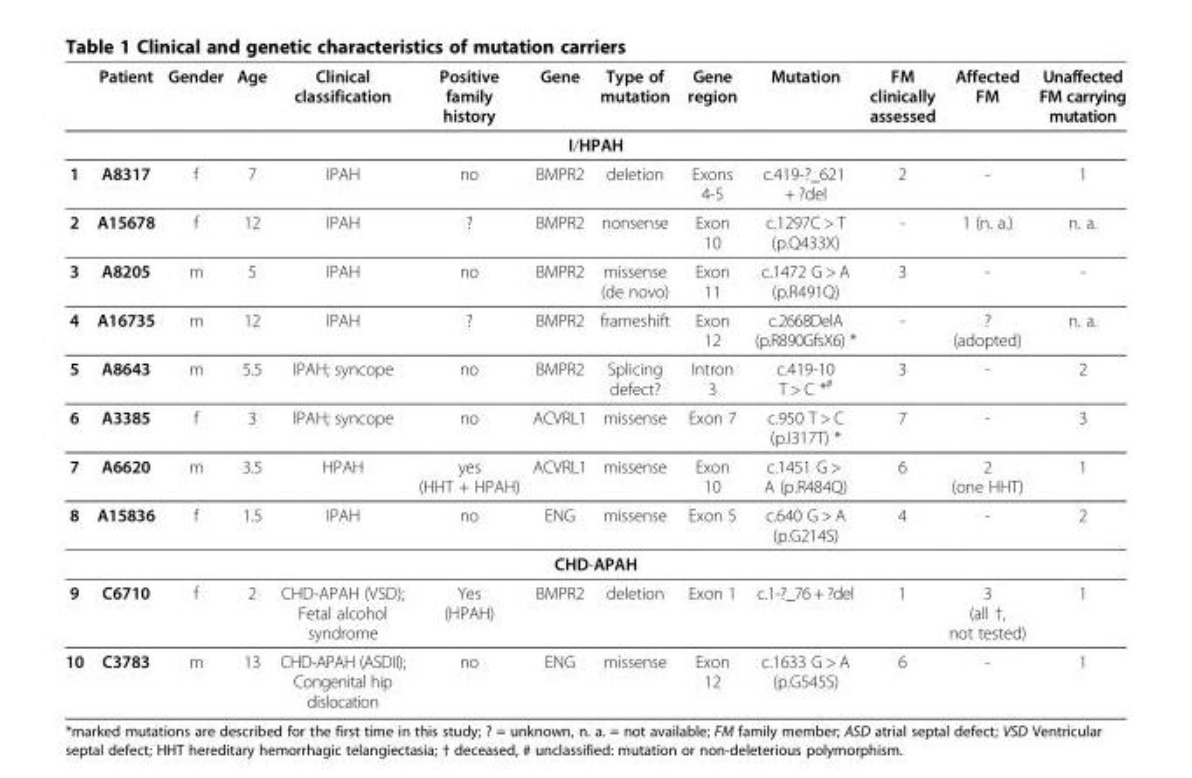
<table><thead><tr><td></td><td>Patient</td><td>Gender</td><td>Age</td><td>Clinical classification</td><td>Positive family history</td><td>Gene</td><td>Type of mutation</td><td>Gene region</td><td>Mutation</td><td>FM clinically assessed</td><td>Affected FM</td><td>Unaffected FM carrying mutation</td></tr></thead><tbody><tr><td colspan="13">I/HPAH</td></tr><tr><td>1</td><td>A8317</td><td>f</td><td>7</td><td>IPAH</td><td>no</td><td>BMPR2</td><td>deletion</td><td>Exons 4-5</td><td>c.419-?_621 + ?del</td><td>2</td><td>-</td><td>1</td></tr><tr><td>2</td><td>A15678</td><td>f</td><td>12</td><td>IPAH</td><td>?</td><td>BMPR2</td><td>nonsense</td><td>Exon 10</td><td>c.1297C &gt; T (p.Q433X)</td><td>-</td><td>1 (n. a.)</td><td>n. a.</td></tr><tr><td>3</td><td>A8205</td><td>m</td><td>5</td><td>IPAH</td><td>no</td><td>BMPR2</td><td>missense (de novo)</td><td>Exon 11</td><td>c.1472 G &gt; A (p.R491Q)</td><td>3</td><td>-</td><td>-</td></tr><tr><td>4</td><td>A16735</td><td>m</td><td>12</td><td>IPAH</td><td>?</td><td>BMPR2</td><td>frameshift</td><td>Exon 12</td><td>c.2668DelA (p.R890GfsX6) *</td><td>-</td><td>? (adopted)</td><td>n. a.</td></tr><tr><td>5</td><td>A8643</td><td>m</td><td>5.5</td><td>IPAH; syncope</td><td>no</td><td>BMPR2</td><td>Splicing defect?</td><td>Intron 3</td><td>c.419-10 T &gt; C *<sup>#</sup></td><td>3</td><td>-</td><td>2</td></tr><tr><td>6</td><td>A3385</td><td>f</td><td>3</td><td>IPAH; syncope</td><td>no</td><td>ACVRL1</td><td>missense</td><td>Exon 7</td><td>c.950 T &gt; C (p.I317T) *</td><td>7</td><td>-</td><td>3</td></tr><tr><td>7</td><td>A6620</td><td>m</td><td>3.5</td><td>HPAH</td><td>yes (HHT + HPAH)</td><td>ACVRL1</td><td>missense</td><td>Exon 10</td><td>c.1451 G &gt; A (p.R484Q)</td><td>6</td><td>2 (one HHT)</td><td>1</td></tr><tr><td>8</td><td>A15836</td><td>f</td><td>1.5</td><td>IPAH</td><td>no</td><td>ENG</td><td>missense</td><td>Exon 5</td><td>c.640 G &gt; A (p.G214S)</td><td>4</td><td>-</td><td>2</td></tr><tr><td colspan="13">CHD-APAH</td></tr><tr><td>9</td><td>C6710</td><td>f</td><td>2</td><td>CHD-APAH (VSD); Fetal alcohol syndrome</td><td>Yes (HPAH)</td><td>BMPR2</td><td>deletion</td><td>Exon 1</td><td>c.1-?_76 + ?del</td><td>1</td><td>3 (all †, not tested)</td><td>1</td></tr><tr><td>10</td><td>C3783</td><td>m</td><td>13</td><td>CHD-APAH (ASDII); Congenital hip dislocation</td><td>no</td><td>ENG</td><td>missense</td><td>Exon 12</td><td>c.1633 G &gt; A (p.G545S)</td><td>6</td><td>-</td><td>1</td></tr></tbody></table>